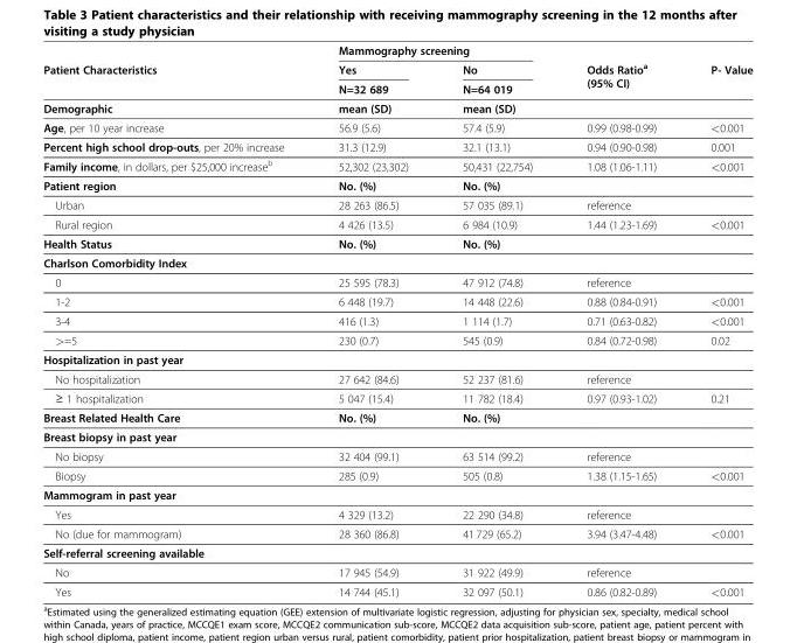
<table><thead><tr><td rowspan="3">Patient Characteristics</td><td colspan="2">Mammography screening</td><td rowspan="3">Odds Ratio<sup>a</sup> (95% CI)</td><td rowspan="3">P- Value</td></tr><tr><td rowspan="2">Yes N=32 689</td><td rowspan="2">No N=64 019</td></tr><tr></tr></thead><tbody><tr><td>Demographic</td><td>mean (SD)</td><td>mean (SD)</td><td></td><td></td></tr><tr><td>Age, per 10 year increase</td><td>56.9 (5.6)</td><td>57.4 (5.9)</td><td>0.99 (0.98-0.99)</td><td>&lt;0.001</td></tr><tr><td>Percent high school drop-outs, per 20% increase</td><td>31.3 (12.9)</td><td>32.1 (13.1)</td><td>0.94 (0.90-0.98)</td><td>0.001</td></tr><tr><td>Family income, in dollars, per $25,000 increase<sup>b</sup></td><td>52,302 (23,302)</td><td>50,431 (22,754)</td><td>1.08 (1.06-1.11)</td><td>&lt;0.001</td></tr><tr><td>Patient region</td><td>No. (%)</td><td>No. (%)</td><td></td><td></td></tr><tr><td>Urban</td><td>28 263 (86.5)</td><td>57 035 (89.1)</td><td>reference</td><td></td></tr><tr><td>Rural region</td><td>4 426 (13.5)</td><td>6 984 (10.9)</td><td>1.44 (1.23-1.69)</td><td>&lt;0.001</td></tr><tr><td>Health Status</td><td>No. (%)</td><td>No. (%)</td><td></td><td></td></tr><tr><td colspan="5">Charlson Comorbidity Index</td></tr><tr><td>0</td><td>25 595 (78.3)</td><td>47 912 (74.8)</td><td>reference</td><td></td></tr><tr><td>1-2</td><td>6 448 (19.7)</td><td>14 448 (22.6)</td><td>0.88 (0.84-0.91)</td><td>&lt;0.001</td></tr><tr><td>3-4</td><td>416 (1.3)</td><td>1 114 (1.7)</td><td>0.71 (0.63-0.82)</td><td>&lt;0.001</td></tr><tr><td>&gt;=5</td><td>230 (0.7)</td><td>545 (0.9)</td><td>0.84 (0.72-0.98)</td><td>0.02</td></tr><tr><td colspan="5">Hospitalization in past year</td></tr><tr><td>No hospitalization</td><td>27 642 (84.6)</td><td>52 237 (81.6)</td><td>reference</td><td></td></tr><tr><td>≥ 1 hospitalization</td><td>5 047 (15.4)</td><td>11 782 (18.4)</td><td>0.97 (0.93-1.02)</td><td>0.21</td></tr><tr><td>Breast Related Health Care</td><td>No. (%)</td><td>No. (%)</td><td></td><td></td></tr><tr><td colspan="5">Breast biopsy in past year</td></tr><tr><td>No biopsy</td><td>32 404 (99.1)</td><td>63 514 (99.2)</td><td>reference</td><td></td></tr><tr><td>Biopsy</td><td>285 (0.9)</td><td>505 (0.8)</td><td>1.38 (1.15-1.65)</td><td>&lt;0.001</td></tr><tr><td colspan="5">Mammogram in past year</td></tr><tr><td>Yes</td><td>4 329 (13.2)</td><td>22 290 (34.8)</td><td>reference</td><td></td></tr><tr><td>No (due for mammogram)</td><td>28 360 (86.8)</td><td>41 729 (65.2)</td><td>3.94 (3.47-4.48)</td><td>&lt;0.001</td></tr><tr><td colspan="5">Self-referral screening available</td></tr><tr><td>No</td><td>17 945 (54.9)</td><td>31 922 (49.9)</td><td>reference</td><td></td></tr><tr><td>Yes</td><td>14 744 (45.1)</td><td>32 097 (50.1)</td><td>0.86 (0.82-0.89)</td><td>&lt;0.001</td></tr></tbody></table>